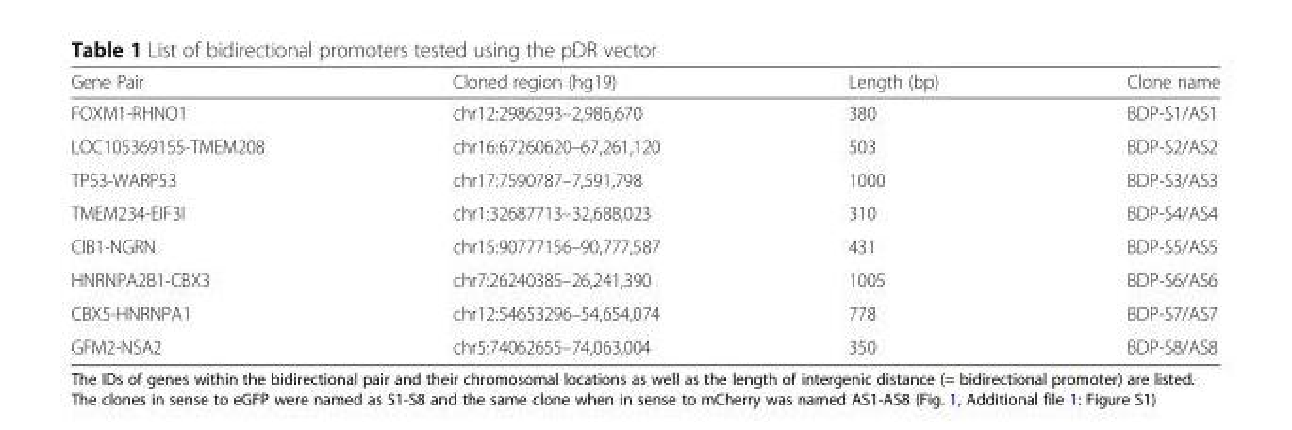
<table><thead><tr><td>Gene Pair</td><td>Cloned region (hg19)</td><td>Length (bp)</td><td>Clone name</td></tr></thead><tbody><tr><td>FOXM1-RHNO1</td><td>chr12:2986293–2,986,670</td><td>380</td><td>BDP-S1/AS1</td></tr><tr><td>LOC105369155-TMEM208</td><td>chr16:67260620–67,261,120</td><td>503</td><td>BDP-S2/AS2</td></tr><tr><td>TP53-WARP53</td><td>chr17:7590787–7,591,798</td><td>1000</td><td>BDP-S3/AS3</td></tr><tr><td>TMEM234-EIF3I</td><td>chr1:32687713–32,688,023</td><td>310</td><td>BDP-S4/AS4</td></tr><tr><td>CIB1-NGRN</td><td>chr15:90777156–90,777,587</td><td>431</td><td>BDP-S5/AS5</td></tr><tr><td>HNRNPA2B1-CBX3</td><td>chr7:26240385–26,241,390</td><td>1005</td><td>BDP-S6/AS6</td></tr><tr><td>CBX5-HNRNPA1</td><td>chr12:54653296–54,654,074</td><td>778</td><td>BDP-S7/AS7</td></tr><tr><td>GFM2-NSA2</td><td>chr5:74062655–74,063,004</td><td>350</td><td>BDP-S8/AS8</td></tr></tbody></table>